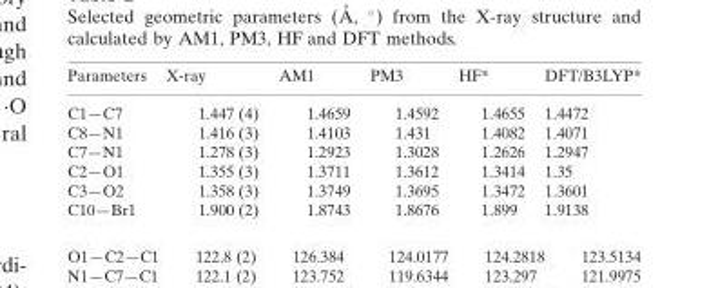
<table><thead><tr><td>Parameters</td><td>X-ray</td><td>AM1</td><td>PM3</td><td>HF*</td><td>DFT/B3LYP*</td></tr></thead><tbody><tr><td>C1—C7</td><td>1.447 (4)</td><td>1.4659</td><td>1.4592</td><td>1.4655</td><td>1.4472</td></tr><tr><td>C8—N1</td><td>1.416 (3)</td><td>1.4103</td><td>1.431</td><td>1.4082</td><td>1.4071</td></tr><tr><td>C7—N1</td><td>1.278 (3)</td><td>1.2923</td><td>1.3028</td><td>1.2626</td><td>1.2947</td></tr><tr><td>C2—O1</td><td>1.355 (3)</td><td>1.3711</td><td>1.3612</td><td>1.3414</td><td>1.35</td></tr><tr><td>C3—O2</td><td>1.358 (3)</td><td>1.3749</td><td>1.3695</td><td>1.3472</td><td>1.3601</td></tr><tr><td>C10—Br1</td><td>1.900 (2)</td><td>1.8743</td><td>1.8676</td><td>1.899</td><td>1.9138</td></tr></tbody></table>